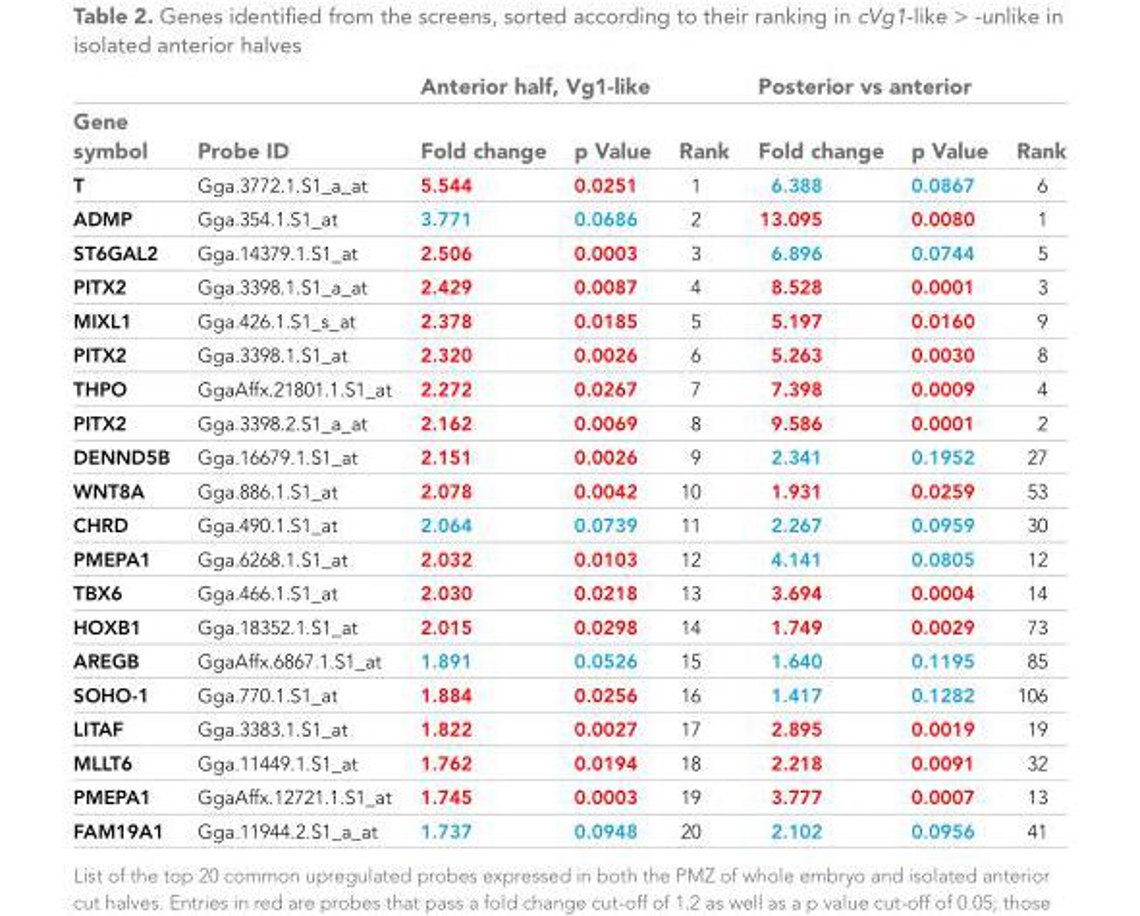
<table><thead><tr><td rowspan="2">Gene symbol</td><td rowspan="2">Probe ID</td><td colspan="3">Anterior half, Vg1-like</td><td colspan="3">Posterior vs anterior</td></tr><tr><td>Fold change</td><td>p Value</td><td>Rank</td><td>Fold change</td><td>p Value</td><td>Rank</td></tr></thead><tbody><tr><td>T</td><td>Gga.3772.1.S1_a_at</td><td>5.544</td><td>0.0251</td><td>1</td><td>6.388</td><td>0.0867</td><td>6</td></tr><tr><td>ADMP</td><td>Gga.354.1.S1_at</td><td>3.771</td><td>0.0686</td><td>2</td><td>13.095</td><td>0.0080</td><td>1</td></tr><tr><td>ST6GAL2</td><td>Gga.14379.1.S1_at</td><td>2.506</td><td>0.0003</td><td>3</td><td>6.896</td><td>0.0744</td><td>5</td></tr><tr><td>PITX2</td><td>Gga.3398.1.S1_a_at</td><td>2.429</td><td>0.0087</td><td>4</td><td>8.528</td><td>0.0001</td><td>3</td></tr><tr><td>MIXL1</td><td>Gga.426.1.S1_s_at</td><td>2.378</td><td>0.0185</td><td>5</td><td>5.197</td><td>0.0160</td><td>9</td></tr><tr><td>PITX2</td><td>Gga.3398.1.S1_at</td><td>2.320</td><td>0.0026</td><td>6</td><td>5.263</td><td>0.0030</td><td>8</td></tr><tr><td>THPO</td><td>GgaAffx.21801.1.S1_at</td><td>2.272</td><td>0.0267</td><td>7</td><td>7.398</td><td>0.0009</td><td>4</td></tr><tr><td>PITX2</td><td>Gga.3398.2.S1_a_at</td><td>2.162</td><td>0.0069</td><td>8</td><td>9.586</td><td>0.0001</td><td>2</td></tr><tr><td>DENND5B</td><td>Gga.16679.1.S1_at</td><td>2.151</td><td>0.0026</td><td>9</td><td>2.341</td><td>0.1952</td><td>27</td></tr><tr><td>WNT8A</td><td>Gga.886.1.S1_at</td><td>2.078</td><td>0.0042</td><td>10</td><td>1.931</td><td>0.0259</td><td>53</td></tr><tr><td>CHRD</td><td>Gga.490.1.S1_at</td><td>2.064</td><td>0.0739</td><td>11</td><td>2.267</td><td>0.0959</td><td>30</td></tr><tr><td>PMEPA1</td><td>Gga.6268.1.S1_at</td><td>2.032</td><td>0.0103</td><td>12</td><td>4.141</td><td>0.0805</td><td>12</td></tr><tr><td>TBX6</td><td>Gga.466.1.S1_at</td><td>2.030</td><td>0.0218</td><td>13</td><td>3.694</td><td>0.0004</td><td>14</td></tr><tr><td>HOXB1</td><td>Gga.18352.1.S1_at</td><td>2.015</td><td>0.0298</td><td>14</td><td>1.749</td><td>0.0029</td><td>73</td></tr><tr><td>AREGB</td><td>GgaAffx.6867.1.S1_at</td><td>1.891</td><td>0.0526</td><td>15</td><td>1.640</td><td>0.1195</td><td>85</td></tr><tr><td>SOHO-1</td><td>Gga.770.1.S1_at</td><td>1.884</td><td>0.0256</td><td>16</td><td>1.417</td><td>0.1282</td><td>106</td></tr><tr><td>LITAF</td><td>Gga.3383.1.S1_at</td><td>1.822</td><td>0.0027</td><td>17</td><td>2.895</td><td>0.0019</td><td>19</td></tr><tr><td>MLLT6</td><td>Gga.11449.1.S1_at</td><td>1.762</td><td>0.0194</td><td>18</td><td>2.218</td><td>0.0091</td><td>32</td></tr><tr><td>PMEPA1</td><td>GgaAffx.12721.1.S1_at</td><td>1.745</td><td>0.0003</td><td>19</td><td>3.777</td><td>0.0007</td><td>13</td></tr><tr><td>FAM19A1</td><td>Gga.11944.2.S1_a_at</td><td>1.737</td><td>0.0948</td><td>20</td><td>2.102</td><td>0.0956</td><td>41</td></tr></tbody></table>